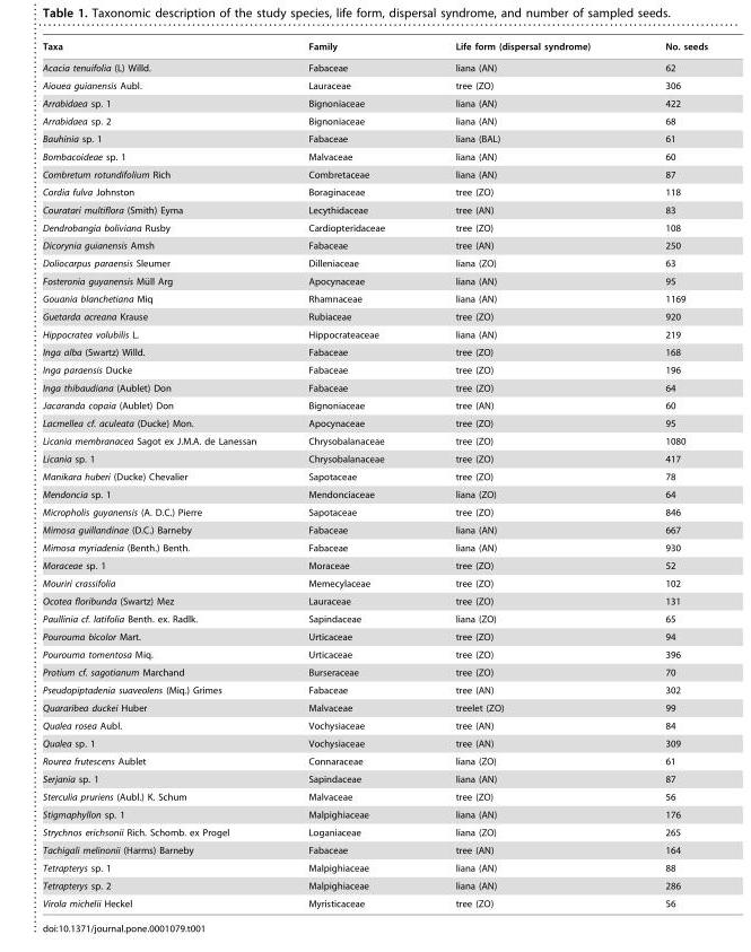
<table><thead><tr><td>Taxa</td><td>Family</td><td>Life form (dispersal syndrome)</td><td>No. seeds</td></tr></thead><tbody><tr><td>Acacia tenuifolia (L) Willd.</td><td>Fabaceae</td><td>liana (AN)</td><td>62</td></tr><tr><td>Aiouea guianensis Aubl.</td><td>Lauraceae</td><td>tree (ZO)</td><td>306</td></tr><tr><td>Arrabidaea sp. 1</td><td>Bignoniaceae</td><td>liana (AN)</td><td>422</td></tr><tr><td>Arrabidaea sp. 2</td><td>Bignoniaceae</td><td>liana (AN)</td><td>68</td></tr><tr><td>Bauhinia sp. 1</td><td>Fabaceae</td><td>liana (BAL)</td><td>61</td></tr><tr><td>Bombacoideae sp. 1</td><td>Malvaceae</td><td>liana (AN)</td><td>60</td></tr><tr><td>Combretum rotundifolium Rich</td><td>Combretaceae</td><td>liana (AN)</td><td>87</td></tr><tr><td>Cordia fulva Johnston</td><td>Boraginaceae</td><td>tree (ZO)</td><td>118</td></tr><tr><td>Couratari multiflora (Smith) Eyma</td><td>Lecythidaceae</td><td>tree (AN)</td><td>83</td></tr><tr><td>Dendrobangia boliviana Rusby</td><td>Cardiopteridaceae</td><td>tree (ZO)</td><td>108</td></tr><tr><td>Dicorynia guianensis Amsh</td><td>Fabaceae</td><td>tree (AN)</td><td>250</td></tr><tr><td>Doliocarpus paraensis Sleumer</td><td>Dilleniaceae</td><td>liana (ZO)</td><td>63</td></tr><tr><td>Fosteronia guyanensis Mu¨ll Arg</td><td>Apocynaceae</td><td>liana (AN)</td><td>95</td></tr><tr><td>Gouania blanchetiana Miq</td><td>Rhamnaceae</td><td>liana (AN)</td><td>1169</td></tr><tr><td>Guetarda acreana Krause</td><td>Rubiaceae</td><td>tree (ZO)</td><td>920</td></tr><tr><td>Hippocratea volubilis L.</td><td>Hippocrateaceae</td><td>liana (AN)</td><td>219</td></tr><tr><td>Inga alba (Swartz) Willd.</td><td>Fabaceae</td><td>tree (ZO)</td><td>168</td></tr><tr><td>Inga paraensis Ducke</td><td>Fabaceae</td><td>tree (ZO)</td><td>196</td></tr><tr><td>Inga thibaudiana (Aublet) Don</td><td>Fabaceae</td><td>tree (ZO)</td><td>64</td></tr><tr><td>Jacaranda copaia (Aublet) Don</td><td>Bignoniaceae</td><td>tree (AN)</td><td>60</td></tr><tr><td>Lacmellea cf. aculeata (Ducke) Mon.</td><td>Apocynaceae</td><td>tree (ZO)</td><td>95</td></tr><tr><td>Licania membranacea Sagot ex J.M.A. de Lanessan</td><td>Chrysobalanaceae</td><td>tree (ZO)</td><td>1080</td></tr><tr><td>Licania sp. 1</td><td>Chrysobalanaceae</td><td>tree (ZO)</td><td>417</td></tr><tr><td>Manikara huberi (Ducke) Chevalier</td><td>Sapotaceae</td><td>tree (ZO)</td><td>78</td></tr><tr><td>Mendoncia sp. 1</td><td>Mendonciaceae</td><td>liana (ZO)</td><td>64</td></tr><tr><td>Micropholis guyanensis (A. D.C.) Pierre</td><td>Sapotaceae</td><td>tree (ZO)</td><td>846</td></tr><tr><td>Mimosa guillandinae (D.C.) Barneby</td><td>Fabaceae</td><td>liana (AN)</td><td>667</td></tr><tr><td>Mimosa myriadenia (Benth.) Benth.</td><td>Fabaceae</td><td>liana (AN)</td><td>930</td></tr><tr><td>Moraceae sp. 1</td><td>Moraceae</td><td>tree (ZO)</td><td>52</td></tr><tr><td>Mouriri crassifolia</td><td>Memecylaceae</td><td>tree (ZO)</td><td>102</td></tr><tr><td>Ocotea floribunda (Swartz) Mez</td><td>Lauraceae</td><td>tree (ZO)</td><td>131</td></tr><tr><td>Paullinia cf. latifolia Benth. ex. Radlk.</td><td>Sapindaceae</td><td>liana (ZO)</td><td>65</td></tr><tr><td>Pourouma bicolor Mart.</td><td>Urticaceae</td><td>tree (ZO)</td><td>94</td></tr><tr><td>Pourouma tomentosa Miq.</td><td>Urticaceae</td><td>tree (ZO)</td><td>396</td></tr><tr><td>Protium cf. sagotianum Marchand</td><td>Burseraceae</td><td>tree (ZO)</td><td>70</td></tr><tr><td>Pseudopiptadenia suaveolens (Miq.) Grimes</td><td>Fabaceae</td><td>tree (AN)</td><td>302</td></tr><tr><td>Quararibea duckei Huber</td><td>Malvaceae</td><td>treelet (ZO)</td><td>99</td></tr><tr><td>Qualea rosea Aubl.</td><td>Vochysiaceae</td><td>tree (AN)</td><td>84</td></tr><tr><td>Qualea sp. 1</td><td>Vochysiaceae</td><td>tree (AN)</td><td>309</td></tr><tr><td>Rourea frutescens Aublet</td><td>Connaraceae</td><td>liana (ZO)</td><td>61</td></tr><tr><td>Serjania sp. 1</td><td>Sapindaceae</td><td>liana (AN)</td><td>87</td></tr><tr><td>Sterculia pruriens (Aubl.) K. Schum</td><td>Malvaceae</td><td>tree (ZO)</td><td>56</td></tr><tr><td>Stigmaphyllon sp. 1</td><td>Malpighiaceae</td><td>liana (AN)</td><td>176</td></tr><tr><td>Strychnos erichsonii Rich. Schomb. ex Progel</td><td>Loganiaceae</td><td>liana (ZO)</td><td>265</td></tr><tr><td>Tachigali melinonii (Harms) Barneby</td><td>Fabaceae</td><td>tree (AN)</td><td>164</td></tr><tr><td>Tetrapterys sp. 1</td><td>Malpighiaceae</td><td>liana (AN)</td><td>88</td></tr><tr><td>Tetrapterys sp. 2</td><td>Malpighiaceae</td><td>liana (AN)</td><td>286</td></tr><tr><td>Virola michelii Heckel</td><td>Myristicaceae</td><td>tree (ZO)</td><td>56</td></tr></tbody></table>